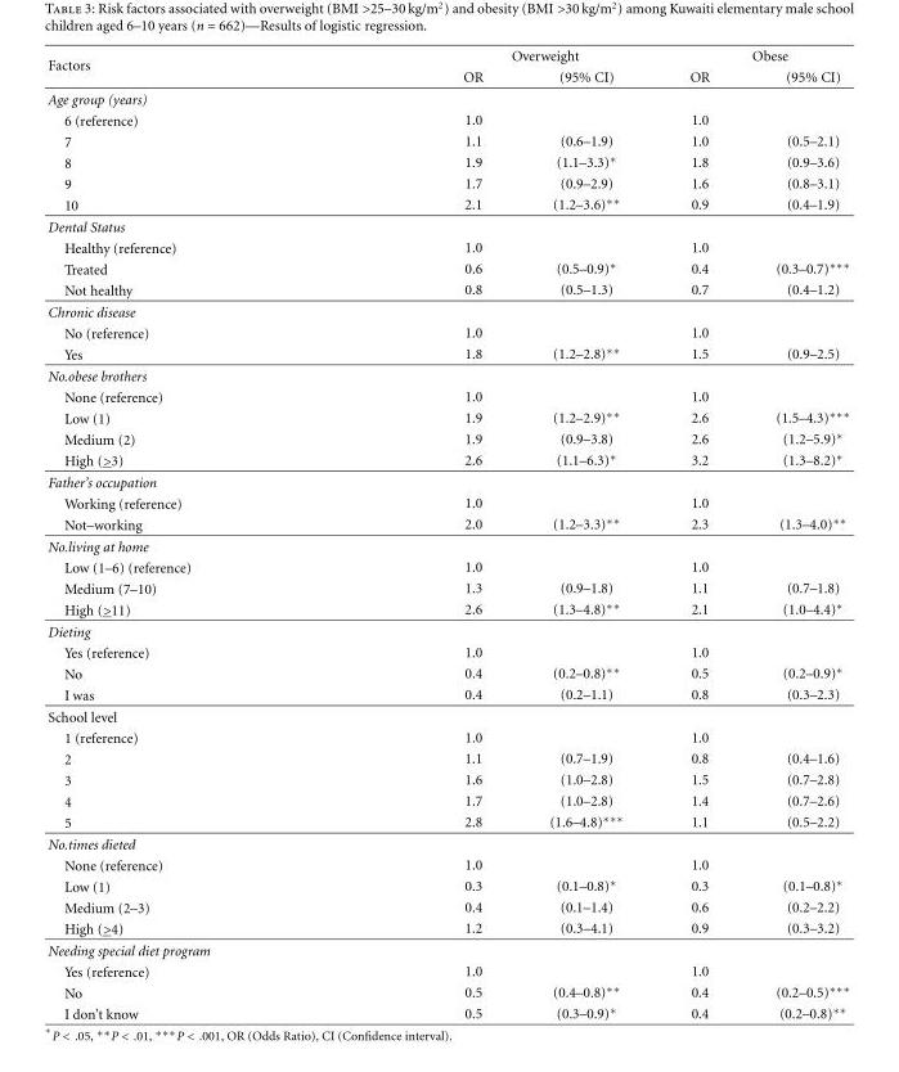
<table><thead><tr><td rowspan="2">Factors</td><td colspan="2">Overweight</td><td colspan="2">Obese</td></tr><tr><td>OR</td><td>(95% CI)</td><td>OR</td><td>(95% CI)</td></tr></thead><tbody><tr><td colspan="5">Age group (years)</td></tr><tr><td>6 (reference)</td><td>1.0</td><td></td><td>1.0</td><td></td></tr><tr><td>7</td><td>1.1</td><td>(0.6–1.9)</td><td>1.0</td><td>(0.5–2.1)</td></tr><tr><td>8</td><td>1.9</td><td>(1.1–3.3)∗</td><td>1.8</td><td>(0.9–3.6)</td></tr><tr><td>9</td><td>1.7</td><td>(0.9–2.9)</td><td>1.6</td><td>(0.8–3.1)</td></tr><tr><td>10</td><td>2.1</td><td>(1.2–3.6)∗∗</td><td>0.9</td><td>(0.4–1.9)</td></tr><tr><td colspan="5">Dental Status</td></tr><tr><td>Healthy (reference)</td><td>1.0</td><td></td><td>1.0</td><td></td></tr><tr><td>Treated</td><td>0.6</td><td>(0.5–0.9)∗</td><td>0.4</td><td>(0.3–0.7)∗∗∗</td></tr><tr><td>Not healthy</td><td>0.8</td><td>(0.5–1.3)</td><td>0.7</td><td>(0.4–1.2)</td></tr><tr><td colspan="5">Chronic disease</td></tr><tr><td>No (reference)</td><td>1.0</td><td></td><td>1.0</td><td></td></tr><tr><td>Yes</td><td>1.8</td><td>(1.2–2.8)∗∗</td><td>1.5</td><td>(0.9–2.5)</td></tr><tr><td colspan="5">No.obese brothers</td></tr><tr><td>None (reference)</td><td>1.0</td><td></td><td>1.0</td><td></td></tr><tr><td>Low (1)</td><td>1.9</td><td>(1.2–2.9)∗∗</td><td>2.6</td><td>(1.5–4.3)∗∗∗</td></tr><tr><td>Medium (2)</td><td>1.9</td><td>(0.9–3.8)</td><td>2.6</td><td>(1.2–5.9)∗</td></tr><tr><td>High (&gt;3)</td><td>2.6</td><td>(1.1–6.3)∗</td><td>3.2</td><td>(1.3–8.2)∗</td></tr><tr><td colspan="5">Father’s occupation</td></tr><tr><td>Working (reference)</td><td>1.0</td><td></td><td>1.0</td><td></td></tr><tr><td>Not–working</td><td>2.0</td><td>(1.2–3.3)∗∗</td><td>2.3</td><td>(1.3–4.0)∗∗</td></tr><tr><td colspan="5">No.living at home</td></tr><tr><td>Low (1–6) (reference)</td><td>1.0</td><td></td><td>1.0</td><td></td></tr><tr><td>Medium (7–10)</td><td>1.3</td><td>(0.9–1.8)</td><td>1.1</td><td>(0.7–1.8)</td></tr><tr><td>High (&gt;11)</td><td>2.6</td><td>(1.3–4.8)∗∗</td><td>2.1</td><td>(1.0–4.4)∗</td></tr><tr><td colspan="5">Dieting</td></tr><tr><td>Yes (reference)</td><td>1.0</td><td></td><td>1.0</td><td></td></tr><tr><td>No</td><td>0.4</td><td>(0.2–0.8)∗∗</td><td>0.5</td><td>(0.2–0.9)∗</td></tr><tr><td>I was</td><td>0.4</td><td>(0.2–1.1)</td><td>0.8</td><td>(0.3–2.3)</td></tr><tr><td colspan="5">School level</td></tr><tr><td>1 (reference)</td><td>1.0</td><td></td><td>1.0</td><td></td></tr><tr><td>2</td><td>1.1</td><td>(0.7–1.9)</td><td>0.8</td><td>(0.4–1.6)</td></tr><tr><td>3</td><td>1.6</td><td>(1.0–2.8)</td><td>1.5</td><td>(0.7–2.8)</td></tr><tr><td>4</td><td>1.7</td><td>(1.0–2.8)</td><td>1.4</td><td>(0.7–2.6)</td></tr><tr><td>5</td><td>2.8</td><td>(1.6–4.8)∗∗∗</td><td>1.1</td><td>(0.5–2.2)</td></tr><tr><td colspan="5">No.times dieted</td></tr><tr><td>None (reference)</td><td>1.0</td><td></td><td>1.0</td><td></td></tr><tr><td>Low (1)</td><td>0.3</td><td>(0.1–0.8)∗</td><td>0.3</td><td>(0.1–0.8)∗</td></tr><tr><td>Medium (2–3)</td><td>0.4</td><td>(0.1–1.4)</td><td>0.6</td><td>(0.2–2.2)</td></tr><tr><td>High (&gt;4)</td><td>1.2</td><td>(0.3–4.1)</td><td>0.9</td><td>(0.3–3.2)</td></tr><tr><td colspan="5">Needing special diet program</td></tr><tr><td>Yes (reference)</td><td>1.0</td><td></td><td>1.0</td><td></td></tr><tr><td>No</td><td>0.5</td><td>(0.4–0.8)∗∗</td><td>0.4</td><td>(0.2–0.5)∗∗∗</td></tr><tr><td>I don’t know</td><td>0.5</td><td>(0.3–0.9)∗</td><td>0.4</td><td>(0.2–0.8)∗∗</td></tr></tbody></table>